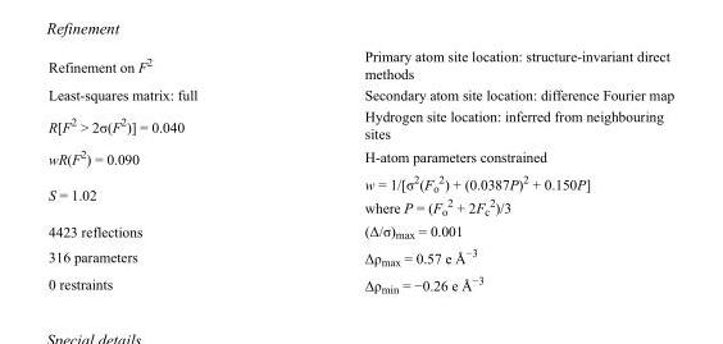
<table><tbody><tr><td>Refinement on F<sup>2</sup></td><td>Primary atom site location: structure-invariant direct methods</td></tr><tr><td>Least-squares matrix: full</td><td>Secondary atom site location: difference Fourier map</td></tr><tr><td>R[F<sup>2</sup> &gt; 2σ(F<sup>2</sup>)] = 0.040</td><td>Hydrogen site location: inferred from neighbouring sites</td></tr><tr><td>wR(F<sup>2</sup>) = 0.090</td><td>H-atom parameters constrained</td></tr><tr><td>S = 1.02</td><td>w = 1/[σ<sup>2</sup>(F<sub>o</sub> <sup>2</sup>) + (0.0387P)<sup>2</sup> + 0.150P] where P = (F<sub>o</sub> <sup>2</sup> + 2F<sub>c</sub> <sup>2</sup>)/3</td></tr><tr><td>4423 reflections</td><td>(Δ/σ)<sub>max</sub> = 0.001</td></tr><tr><td>316 parameters</td><td>Δρ<sub>max</sub> = 0.57 e Å<sup>−3</sup></td></tr><tr><td>0 restraints</td><td>Δρ<sub>min</sub> = −0.26 e Å<sup>−3</sup></td></tr></tbody></table>